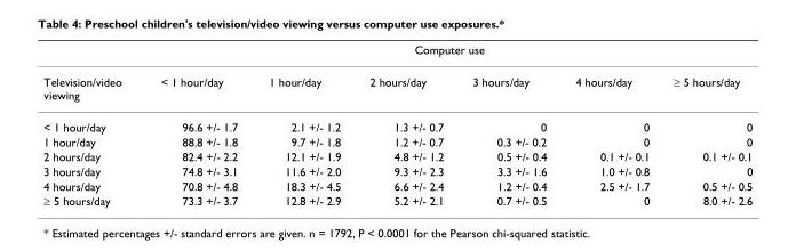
<table><thead><tr><td rowspan="2">Television/video viewing</td><td colspan="6">Computer use</td></tr><tr><td>&lt; 1 hour/day</td><td>1 hour/day</td><td>2 hours/day</td><td>3 hours/day</td><td>4 hours/day</td><td>≥ 5 hours/day</td></tr></thead><tbody><tr><td>&lt; 1 hour/day</td><td>96.6 +/- 1.7</td><td>2.1 +/- 1.2</td><td>1.3 +/- 0.7</td><td>0</td><td>0</td><td>0</td></tr><tr><td>1 hour/day</td><td>88.8 +/- 1.8</td><td>9.7 +/- 1.8</td><td>1.2 +/- 0.7</td><td>0.3 +/- 0.2</td><td>0</td><td>0</td></tr><tr><td>2 hours/day</td><td>82.4 +/- 2.2</td><td>12.1 +/- 1.9</td><td>4.8 +/- 1.2</td><td>0.5 +/- 0.4</td><td>0.1 +/- 0.1</td><td>0.1 +/- 0.1</td></tr><tr><td>3 hours/day</td><td>74.8 +/- 3.1</td><td>11.6 +/- 2.0</td><td>9.3 +/- 2.3</td><td>3.3 +/- 1.6</td><td>1.0 +/- 0.8</td><td>0</td></tr><tr><td>4 hours/day</td><td>70.8 +/- 4.8</td><td>18.3 +/- 4.5</td><td>6.6 +/- 2.4</td><td>1.2 +/- 0.4</td><td>2.5 +/- 1.7</td><td>0.5 +/- 0.5</td></tr><tr><td>≥ 5 hours/day</td><td>73.3 +/- 3.7</td><td>12.8 +/- 2.9</td><td>5.2 +/- 2.1</td><td>0.7 +/- 0.5</td><td>0</td><td>8.0 +/- 2.6</td></tr></tbody></table>